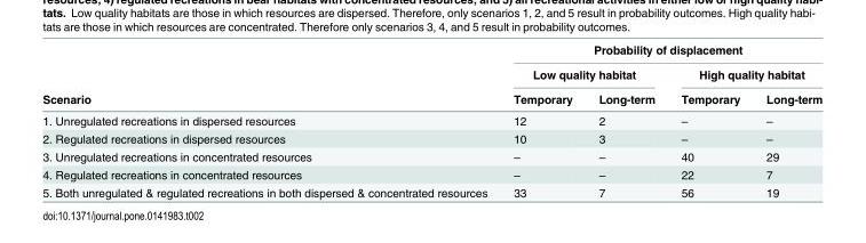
<table><thead><tr><td rowspan="3">Scenario</td><td colspan="4">Probability of displacement</td></tr><tr><td colspan="2">Low quality habitat</td><td colspan="2">High quality habitat</td></tr><tr><td>Temporary</td><td>Long-term</td><td>Temporary</td><td>Long-term</td></tr></thead><tbody><tr><td>1. Unregulated recreations in dispersed resources</td><td>12</td><td>2</td><td>–</td><td>–</td></tr><tr><td>2. Regulated recreations in dispersed resources</td><td>10</td><td>3</td><td>–</td><td>–</td></tr><tr><td>3. Unregulated recreations in concentrated resources</td><td>–</td><td>–</td><td>40</td><td>29</td></tr><tr><td>4. Regulated recreations in concentrated resources</td><td>–</td><td>–</td><td>22</td><td>7</td></tr><tr><td>5. Both unregulated &amp; regulated recreations in both dispersed &amp; concentrated resources</td><td>33</td><td>7</td><td>56</td><td>19</td></tr></tbody></table>